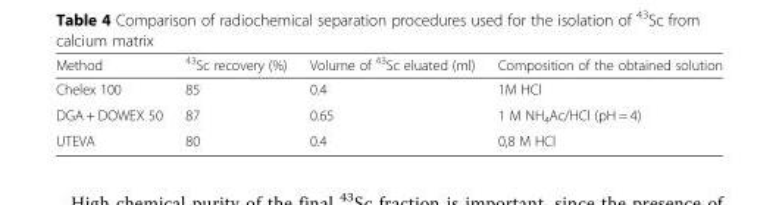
<table><thead><tr><td>Method</td><td><sup>43</sup>Sc recovery (%)</td><td>Volume of <sup>43</sup>Sc eluated (ml)</td><td>Composition of the obtained solution</td></tr></thead><tbody><tr><td>Chelex 100</td><td>85</td><td>0.4</td><td>1M HCl</td></tr><tr><td>DGA + DOWEX 50</td><td>87</td><td>0.65</td><td>1 M NH<sub>4</sub>Ac/HCl (pH = 4)</td></tr><tr><td>UTEVA</td><td>80</td><td>0.4</td><td>0,8 M HCl</td></tr></tbody></table>